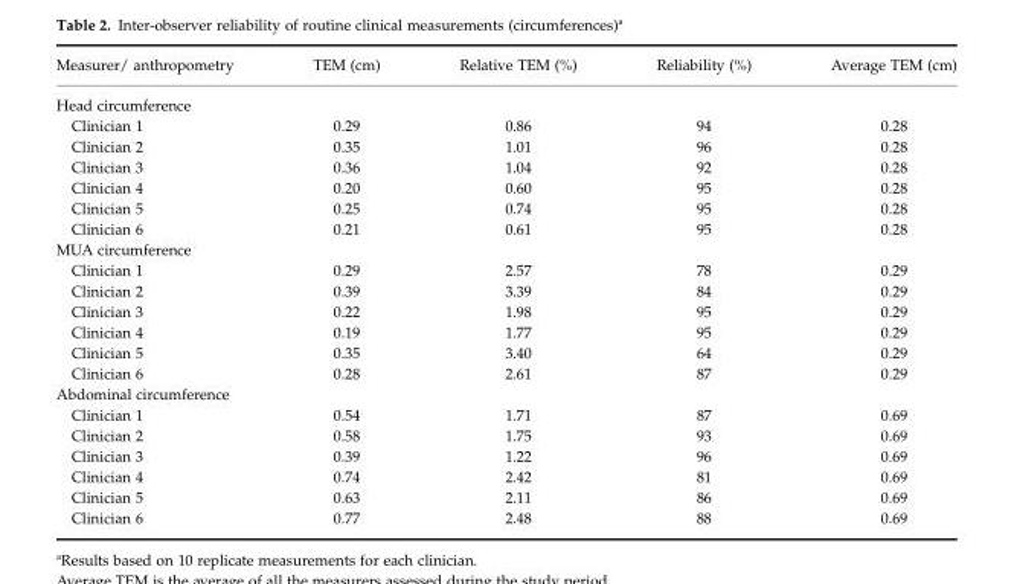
<table><thead><tr><td>Measurer/ anthropometry</td><td>TEM (cm)</td><td>Relative TEM (%)</td><td>Reliability (%)</td><td>Average TEM (cm)</td></tr></thead><tbody><tr><td colspan="5">Head circumference</td></tr><tr><td>Clinician 1</td><td>0.29</td><td>0.86</td><td>94</td><td>0.28</td></tr><tr><td>Clinician 2</td><td>0.35</td><td>1.01</td><td>96</td><td>0.28</td></tr><tr><td>Clinician 3</td><td>0.36</td><td>1.04</td><td>92</td><td>0.28</td></tr><tr><td>Clinician 4</td><td>0.20</td><td>0.60</td><td>95</td><td>0.28</td></tr><tr><td>Clinician 5</td><td>0.25</td><td>0.74</td><td>95</td><td>0.28</td></tr><tr><td>Clinician 6</td><td>0.21</td><td>0.61</td><td>95</td><td>0.28</td></tr><tr><td colspan="5">MUA circumference</td></tr><tr><td>Clinician 1</td><td>0.29</td><td>2.57</td><td>78</td><td>0.29</td></tr><tr><td>Clinician 2</td><td>0.39</td><td>3.39</td><td>84</td><td>0.29</td></tr><tr><td>Clinician 3</td><td>0.22</td><td>1.98</td><td>95</td><td>0.29</td></tr><tr><td>Clinician 4</td><td>0.19</td><td>1.77</td><td>95</td><td>0.29</td></tr><tr><td>Clinician 5</td><td>0.35</td><td>3.40</td><td>64</td><td>0.29</td></tr><tr><td>Clinician 6</td><td>0.28</td><td>2.61</td><td>87</td><td>0.29</td></tr><tr><td colspan="5">Abdominal circumference</td></tr><tr><td>Clinician 1</td><td>0.54</td><td>1.71</td><td>87</td><td>0.69</td></tr><tr><td>Clinician 2</td><td>0.58</td><td>1.75</td><td>93</td><td>0.69</td></tr><tr><td>Clinician 3</td><td>0.39</td><td>1.22</td><td>96</td><td>0.69</td></tr><tr><td>Clinician 4</td><td>0.74</td><td>2.42</td><td>81</td><td>0.69</td></tr><tr><td>Clinician 5</td><td>0.63</td><td>2.11</td><td>86</td><td>0.69</td></tr><tr><td>Clinician 6</td><td>0.77</td><td>2.48</td><td>88</td><td>0.69</td></tr></tbody></table>